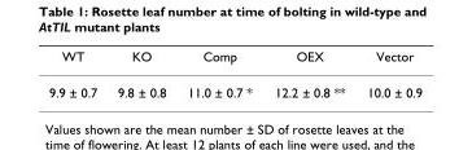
<table><thead><tr><td>WT</td><td>KO</td><td>Comp</td><td>OEX</td><td>Vector</td></tr></thead><tbody><tr><td>9.9 ± 0.7</td><td>9.8 ± 0.8</td><td>11.0 ± 0.7 *</td><td>12.2 ± 0.8 **</td><td>10.0 ± 0.9</td></tr></tbody></table>